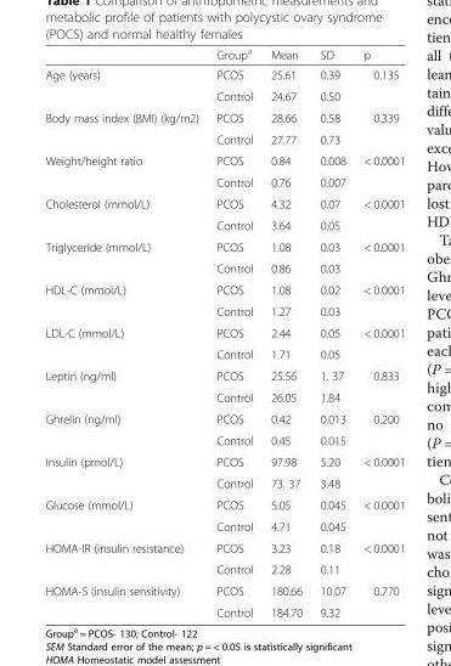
<table><thead><tr><td></td><td>Group<sup>a</sup></td><td>Mean</td><td>SD</td><td>p</td></tr></thead><tbody><tr><td rowspan="2">Age (years)</td><td>PCOS</td><td>25.61</td><td>0.39</td><td rowspan="2">0.135</td></tr><tr><td>Control</td><td>24.67</td><td>0.50</td></tr><tr><td rowspan="2">Body mass index (BMI) (kg/m2)</td><td>PCOS</td><td>28.66</td><td>0.58</td><td rowspan="2">0.339</td></tr><tr><td>Control</td><td>27.77</td><td>0.73</td></tr><tr><td rowspan="2">Weight/height ratio</td><td>PCOS</td><td>0.84</td><td>0.008</td><td rowspan="2">&lt; 0.0001</td></tr><tr><td>Control</td><td>0.76</td><td>0.007</td></tr><tr><td rowspan="2">Cholesterol (mmol/L)</td><td>PCOS</td><td>4.32</td><td>0.07</td><td rowspan="2">&lt; 0.0001</td></tr><tr><td>Control</td><td>3.64</td><td>0.05</td></tr><tr><td rowspan="2">Triglyceride (mmol/L)</td><td>PCOS</td><td>1.08</td><td>0.03</td><td rowspan="2">&lt; 0.0001</td></tr><tr><td>Control</td><td>0.86</td><td>0.03</td></tr><tr><td rowspan="2">HDL-C (mmol/L)</td><td>PCOS</td><td>1.08</td><td>0.02</td><td rowspan="2">&lt; 0.0001</td></tr><tr><td>Control</td><td>1.27</td><td>0.03</td></tr><tr><td rowspan="2">LDL-C (mmol/L)</td><td>PCOS</td><td>2.44</td><td>0.05</td><td rowspan="2">&lt; 0.0001</td></tr><tr><td>Control</td><td>1.71</td><td>0.05</td></tr><tr><td rowspan="2">Leptin (ng/ml)</td><td>PCOS</td><td>25.56</td><td>1. 37</td><td rowspan="2">0.833</td></tr><tr><td>Control</td><td>26.05</td><td>1.84</td></tr><tr><td rowspan="2">Ghrelin (ng/ml)</td><td>PCOS</td><td>0.42</td><td>0.013</td><td rowspan="2">0.200</td></tr><tr><td>Control</td><td>0.45</td><td>0.015</td></tr><tr><td rowspan="2">Insulin (pmol/L)</td><td>PCOS</td><td>97.98</td><td>5.20</td><td rowspan="2">&lt; 0.0001</td></tr><tr><td>Control</td><td>73. 37</td><td>3.48</td></tr><tr><td rowspan="2">Glucose (mmol/L)</td><td>PCOS</td><td>5.05</td><td>0.045</td><td rowspan="2">&lt; 0.0001</td></tr><tr><td>Control</td><td>4.71</td><td>0.045</td></tr><tr><td rowspan="2">HOMA-IR (insulin resistance)</td><td>PCOS</td><td>3.23</td><td>0.18</td><td rowspan="2">&lt; 0.0001</td></tr><tr><td>Control</td><td>2.28</td><td>0.11</td></tr><tr><td rowspan="2">HOMA-S (insulin sensitivity)</td><td>PCOS</td><td>180.66</td><td>10.07</td><td rowspan="2">0.770</td></tr><tr><td>Control</td><td>184.70</td><td>9.32</td></tr></tbody></table>